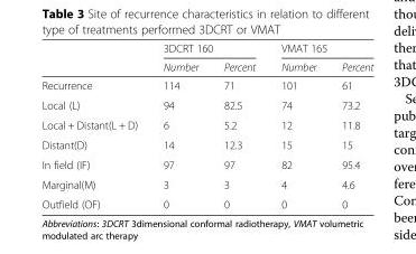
<table><thead><tr><td rowspan="2"></td><td colspan="2">3DCRT 160</td><td colspan="2">VMAT 165</td></tr><tr><td>Number</td><td>Percent</td><td>Number</td><td>Percent</td></tr></thead><tbody><tr><td>Recurrence</td><td>114</td><td>71</td><td>101</td><td>61</td></tr><tr><td>Local (L)</td><td>94</td><td>82.5</td><td>74</td><td>73.2</td></tr><tr><td>Local + Distant(L + D)</td><td>6</td><td>5.2</td><td>12</td><td>11.8</td></tr><tr><td>Distant(D)</td><td>14</td><td>12.3</td><td>15</td><td>15</td></tr><tr><td>In field (IF)</td><td>97</td><td>97</td><td>82</td><td>95.4</td></tr><tr><td>Marginal(M)</td><td>3</td><td>3</td><td>4</td><td>4.6</td></tr><tr><td>Outfield (OF)</td><td>0</td><td>0</td><td>0</td><td>0</td></tr></tbody></table>